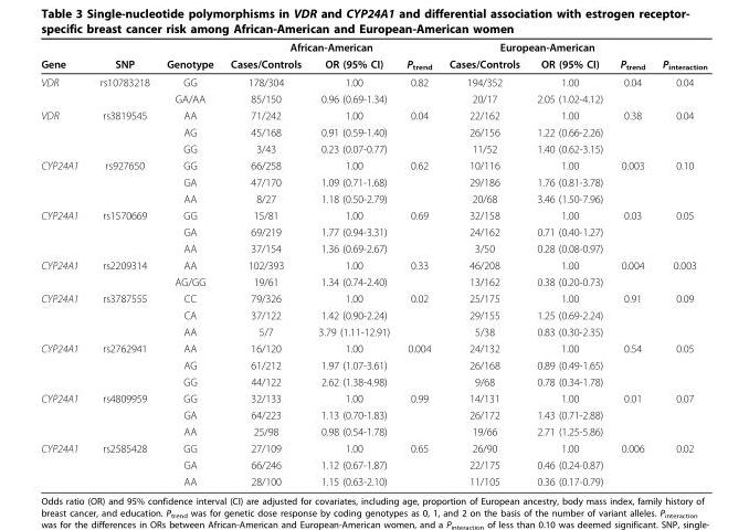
<table><thead><tr><td rowspan="2">Gene</td><td rowspan="2">SNP</td><td rowspan="2">Genotype</td><td colspan="3">African-American</td><td colspan="3">European-American</td><td rowspan="2">P<sub>interaction</sub></td></tr><tr><td>Cases/Controls</td><td>OR (95% CI)</td><td>P<sub>trend</sub></td><td>Cases/Controls</td><td>OR (95% CI)</td><td>P<sub>trend</sub></td></tr></thead><tbody><tr><td rowspan="2">VDR</td><td>rs10783218</td><td>GG</td><td>178/304</td><td>1.00</td><td>0.82</td><td>194/352</td><td>1.00</td><td>0.04</td><td>0.04</td></tr><tr><td></td><td>GA/AA</td><td>85/150</td><td>0.96 (0.69-1.34)</td><td></td><td>20/17</td><td>2.05 (1.02-4.12)</td><td></td><td></td></tr><tr><td rowspan="3">VDR</td><td>rs3819545</td><td>AA</td><td>71/242</td><td>1.00</td><td>0.04</td><td>22/162</td><td>1.00</td><td>0.38</td><td>0.04</td></tr><tr><td></td><td>AG</td><td>45/168</td><td>0.91 (0.59-1.40)</td><td></td><td>26/156</td><td>1.22 (0.66-2.26)</td><td></td><td></td></tr><tr><td></td><td>GG</td><td>3/43</td><td>0.23 (0.07-0.77)</td><td></td><td>11/52</td><td>1.40 (0.62-3.15)</td><td></td><td></td></tr><tr><td rowspan="3">CYP24A1</td><td>rs927650</td><td>GG</td><td>66/258</td><td>1.00</td><td>0.62</td><td>10/116</td><td>1.00</td><td>0.003</td><td>0.10</td></tr><tr><td></td><td>GA</td><td>47/170</td><td>1.09 (0.71-1.68)</td><td></td><td>29/186</td><td>1.76 (0.81-3.78)</td><td></td><td></td></tr><tr><td></td><td>AA</td><td>8/27</td><td>1.18 (0.50-2.79)</td><td></td><td>20/68</td><td>3.46 (1.50-7.96)</td><td></td><td></td></tr><tr><td rowspan="3">CYP24A1</td><td>rs1570669</td><td>GG</td><td>15/81</td><td>1.00</td><td>0.69</td><td>32/158</td><td>1.00</td><td>0.03</td><td>0.05</td></tr><tr><td></td><td>GA</td><td>69/219</td><td>1.77 (0.94-3.31)</td><td></td><td>24/162</td><td>0.71 (0.40-1.27)</td><td></td><td></td></tr><tr><td></td><td>AA</td><td>37/154</td><td>1.36 (0.69-2.67)</td><td></td><td>3/50</td><td>0.28 (0.08-0.97)</td><td></td><td></td></tr><tr><td rowspan="2">CYP24A1</td><td>rs2209314</td><td>AA</td><td>102/393</td><td>1.00</td><td>0.33</td><td>46/208</td><td>1.00</td><td>0.004</td><td>0.003</td></tr><tr><td></td><td>AG/GG</td><td>19/61</td><td>1.34 (0.74-2.40)</td><td></td><td>13/162</td><td>0.38 (0.20-0.73)</td><td></td><td></td></tr><tr><td rowspan="3">CYP24A1</td><td>rs3787555</td><td>CC</td><td>79/326</td><td>1.00</td><td>0.02</td><td>25/175</td><td>1.00</td><td>0.91</td><td>0.09</td></tr><tr><td></td><td>CA</td><td>37/122</td><td>1.42 (0.90-2.24)</td><td></td><td>29/155</td><td>1.25 (0.69-2.24)</td><td></td><td></td></tr><tr><td></td><td>AA</td><td>5/7</td><td>3.79 (1.11-12.91)</td><td></td><td>5/38</td><td>0.83 (0.30-2.35)</td><td></td><td></td></tr><tr><td rowspan="3">CYP24A1</td><td>rs2762941</td><td>AA</td><td>16/120</td><td>1.00</td><td>0.004</td><td>24/132</td><td>1.00</td><td>0.54</td><td>0.05</td></tr><tr><td></td><td>AG</td><td>61/212</td><td>1.97 (1.07-3.61)</td><td></td><td>26/168</td><td>0.89 (0.49-1.65)</td><td></td><td></td></tr><tr><td></td><td>GG</td><td>44/122</td><td>2.62 (1.38-4.98)</td><td></td><td>9/68</td><td>0.78 (0.34-1.78)</td><td></td><td></td></tr><tr><td rowspan="3">CYP24A1</td><td>rs4809959</td><td>GG</td><td>32/133</td><td>1.00</td><td>0.99</td><td>14/131</td><td>1.00</td><td>0.01</td><td>0.07</td></tr><tr><td></td><td>GA</td><td>64/223</td><td>1.13 (0.70-1.83)</td><td></td><td>26/172</td><td>1.43 (0.71-2.88)</td><td></td><td></td></tr><tr><td></td><td>AA</td><td>25/98</td><td>0.98 (0.54-1.78)</td><td></td><td>19/66</td><td>2.71 (1.25-5.86)</td><td></td><td></td></tr><tr><td rowspan="3">CYP24A1</td><td>rs2585428</td><td>GG</td><td>27/109</td><td>1.00</td><td>0.65</td><td>26/90</td><td>1.00</td><td>0.006</td><td>0.02</td></tr><tr><td></td><td>GA</td><td>66/246</td><td>1.12 (0.67-1.87)</td><td></td><td>22/175</td><td>0.46 (0.24-0.87)</td><td></td><td></td></tr><tr><td></td><td>AA</td><td>28/100</td><td>1.15 (0.63-2.10)</td><td></td><td>11/105</td><td>0.36 (0.17-0.79)</td><td></td><td></td></tr></tbody></table>